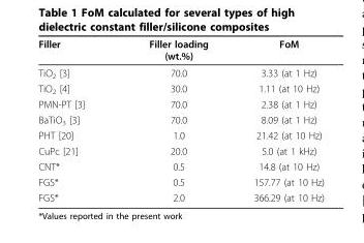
<table><thead><tr><td>Filler</td><td>Filler loading (wt.%)</td><td>FoM</td></tr></thead><tbody><tr><td>TiO<sub>2</sub> [3]</td><td>70.0</td><td>3.33 (at 1 Hz)</td></tr><tr><td>TiO<sub>2</sub> [4]</td><td>30.0</td><td>1.11 (at 10 Hz)</td></tr><tr><td>PMN-PT [3]</td><td>70.0</td><td>2.38 (at 1 Hz)</td></tr><tr><td>BaTiO<sub>3</sub> [3]</td><td>70.0</td><td>8.09 (at 1 Hz)</td></tr><tr><td>PHT [20]</td><td>1.0</td><td>21.42 (at 10 Hz)</td></tr><tr><td>CuPc [21]</td><td>20.0</td><td>5.0 (at 1 kHz)</td></tr><tr><td>CNT*</td><td>0.5</td><td>14.8 (at 10 Hz)</td></tr><tr><td>FGS*</td><td>0.5</td><td>157.77 (at 10 Hz)</td></tr><tr><td>FGS*</td><td>2.0</td><td>366.29 (at 10 Hz)</td></tr></tbody></table>